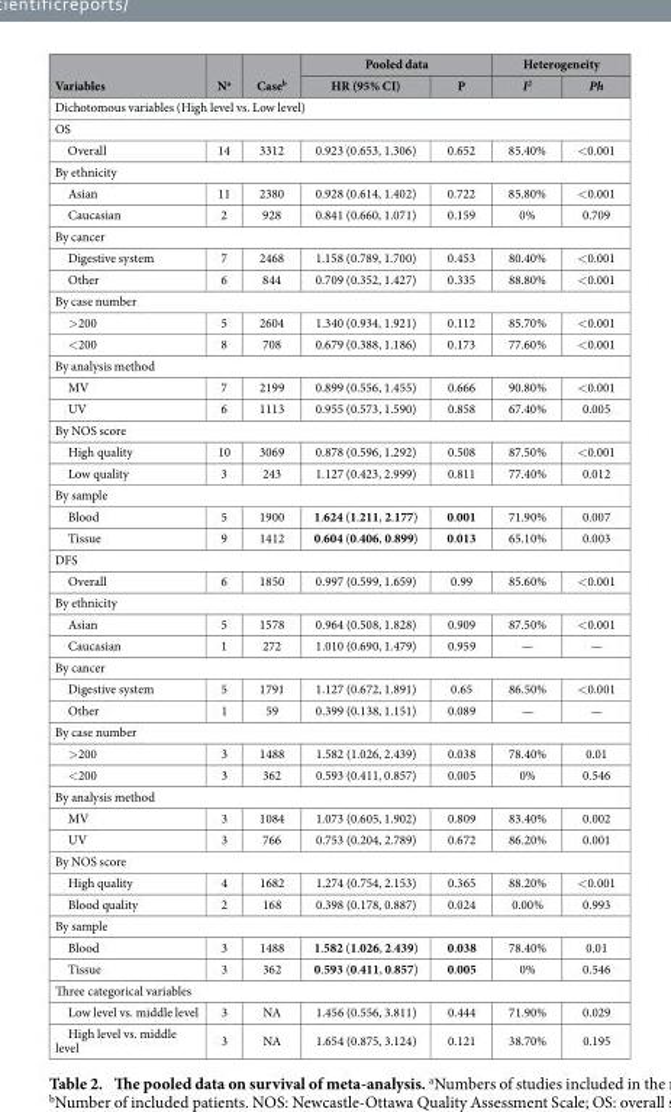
<table><thead><tr><td rowspan="2">Variables</td><td rowspan="2">N<sup>a</sup></td><td rowspan="2">Case<sup>b</sup></td><td colspan="2">Pooled data</td><td colspan="2">Heterogeneity</td></tr><tr><td>HR (95% CI)</td><td>P</td><td>I<sup>2</sup></td><td>Ph</td></tr></thead><tbody><tr><td colspan="7">Dichotomous variables (High level vs. Low level)</td></tr><tr><td colspan="7">OS</td></tr><tr><td>Overall</td><td>14</td><td>3312</td><td>0.923 (0.653, 1.306)</td><td>0.652</td><td>85.40%</td><td>&lt; 0.001</td></tr><tr><td colspan="7">By ethnicity</td></tr><tr><td>Asian</td><td>11</td><td>2380</td><td>0.928 (0.614, 1.402)</td><td>0.722</td><td>85.80%</td><td>&lt; 0.001</td></tr><tr><td>Caucasian</td><td>2</td><td>928</td><td>0.841 (0.660, 1.071)</td><td>0.159</td><td>0%</td><td>0.709</td></tr><tr><td colspan="7">By cancer</td></tr><tr><td>Digestive system</td><td>7</td><td>2468</td><td>1.158 (0.789, 1.700)</td><td>0.453</td><td>80.40%</td><td>&lt; 0.001</td></tr><tr><td>Other</td><td>6</td><td>844</td><td>0.709 (0.352, 1.427)</td><td>0.335</td><td>88.80%</td><td>&lt; 0.001</td></tr><tr><td colspan="7">By case number</td></tr><tr><td>&gt; 200</td><td>5</td><td>2604</td><td>1.340 (0.934, 1.921)</td><td>0.112</td><td>85.70%</td><td>&lt; 0.001</td></tr><tr><td>&lt; 200</td><td>8</td><td>708</td><td>0.679 (0.388, 1.186)</td><td>0.173</td><td>77.60%</td><td>&lt; 0.001</td></tr><tr><td colspan="7">By analysis method</td></tr><tr><td>MV</td><td>7</td><td>2199</td><td>0.899 (0.556, 1.455)</td><td>0.666</td><td>90.80%</td><td>&lt; 0.001</td></tr><tr><td>UV</td><td>6</td><td>1113</td><td>0.955 (0.573, 1.590)</td><td>0.858</td><td>67.40%</td><td>0.005</td></tr><tr><td colspan="7">By NOS score</td></tr><tr><td>High quality</td><td>10</td><td>3069</td><td>0.878 (0.596, 1.292)</td><td>0.508</td><td>87.50%</td><td>&lt; 0.001</td></tr><tr><td>Low quality</td><td>3</td><td>243</td><td>1.127 (0.423, 2.999)</td><td>0.811</td><td>77.40%</td><td>0.012</td></tr><tr><td colspan="7">By sample</td></tr><tr><td>Blood</td><td>5</td><td>1900</td><td>1.624 (1.211, 2.177)</td><td>0.001</td><td>71.90%</td><td>0.007</td></tr><tr><td>Tissue</td><td>9</td><td>1412</td><td>0.604 (0.406, 0.899)</td><td>0.013</td><td>65.10%</td><td>0.003</td></tr><tr><td colspan="7">DFS</td></tr><tr><td>Overall</td><td>6</td><td>1850</td><td>0.997 (0.599, 1.659)</td><td>0.99</td><td>85.60%</td><td>&lt; 0.001</td></tr><tr><td colspan="7">By ethnicity</td></tr><tr><td>Asian</td><td>5</td><td>1578</td><td>0.964 (0.508, 1.828)</td><td>0.909</td><td>87.50%</td><td>&lt; 0.001</td></tr><tr><td>Caucasian</td><td>1</td><td>272</td><td>1.010 (0.690, 1.479)</td><td>0.959</td><td>—</td><td>—</td></tr><tr><td colspan="7">By cancer</td></tr><tr><td>Digestive system</td><td>5</td><td>1791</td><td>1.127 (0.672, 1.891)</td><td>0.65</td><td>86.50%</td><td>&lt; 0.001</td></tr><tr><td>Other</td><td>1</td><td>59</td><td>0.399 (0.138, 1.151)</td><td>0.089</td><td>—</td><td>—</td></tr><tr><td colspan="7">By case number</td></tr><tr><td>&gt; 200</td><td>3</td><td>1488</td><td>1.582 (1.026, 2.439)</td><td>0.038</td><td>78.40%</td><td>0.01</td></tr><tr><td>&lt; 200</td><td>3</td><td>362</td><td>0.593 (0.411, 0.857)</td><td>0.005</td><td>0%</td><td>0.546</td></tr><tr><td colspan="7">By analysis method</td></tr><tr><td>MV</td><td>3</td><td>1084</td><td>1.073 (0.605, 1.902)</td><td>0.809</td><td>83.40%</td><td>0.002</td></tr><tr><td>UV</td><td>3</td><td>766</td><td>0.753 (0.204, 2.789)</td><td>0.672</td><td>86.20%</td><td>0.001</td></tr><tr><td colspan="7">By NOS score</td></tr><tr><td>High quality</td><td>4</td><td>1682</td><td>1.274 (0.754, 2.153)</td><td>0.365</td><td>88.20%</td><td>&lt; 0.001</td></tr><tr><td>Blood quality</td><td>2</td><td>168</td><td>0.398 (0.178, 0.887)</td><td>0.024</td><td>0.00%</td><td>0.993</td></tr><tr><td colspan="7">By sample</td></tr><tr><td>Blood</td><td>3</td><td>1488</td><td>1.582 (1.026, 2.439)</td><td>0.038</td><td>78.40%</td><td>0.01</td></tr><tr><td>Tissue</td><td>3</td><td>362</td><td>0.593 (0.411, 0.857)</td><td>0.005</td><td>0%</td><td>0.546</td></tr><tr><td colspan="7">Three categorical variables</td></tr><tr><td>Low level vs. middle level</td><td>3</td><td>NA</td><td>1.456 (0.556, 3.811)</td><td>0.444</td><td>71.90%</td><td>0.029</td></tr><tr><td>High level vs. middle level</td><td>3</td><td>NA</td><td>1.654 (0.875, 3.124)</td><td>0.121</td><td>38.70%</td><td>0.195</td></tr></tbody></table>